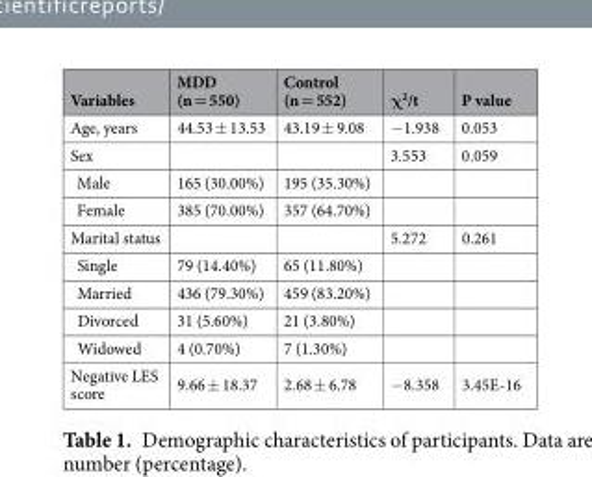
<table><thead><tr><td>Variables</td><td>MDD (n = 550)</td><td>Control (n = 552)</td><td>χ<sup>2</sup>/t</td><td>P value</td></tr></thead><tbody><tr><td>Age, years</td><td>44.53 ± 13.53</td><td>43.19 ± 9.08</td><td>−1.938</td><td>0.053</td></tr><tr><td>Sex</td><td></td><td></td><td>3.553</td><td>0.059</td></tr><tr><td>Male</td><td>165 (30.00%)</td><td>195 (35.30%)</td><td></td><td></td></tr><tr><td>Female</td><td>385 (70.00%)</td><td>357 (64.70%)</td><td></td><td></td></tr><tr><td>Marital status</td><td></td><td></td><td>5.272</td><td>0.261</td></tr><tr><td>Single</td><td>79 (14.40%)</td><td>65 (11.80%)</td><td></td><td></td></tr><tr><td>Married</td><td>436 (79.30%)</td><td>459 (83.20%)</td><td></td><td></td></tr><tr><td>Divorced</td><td>31 (5.60%)</td><td>21 (3.80%)</td><td></td><td></td></tr><tr><td>Widowed</td><td>4 (0.70%)</td><td>7 (1.30%)</td><td></td><td></td></tr><tr><td>Negative LES score</td><td>9.66 ± 18.37</td><td>2.68 ± 6.78</td><td>−8.358</td><td>3.45E-16</td></tr></tbody></table>